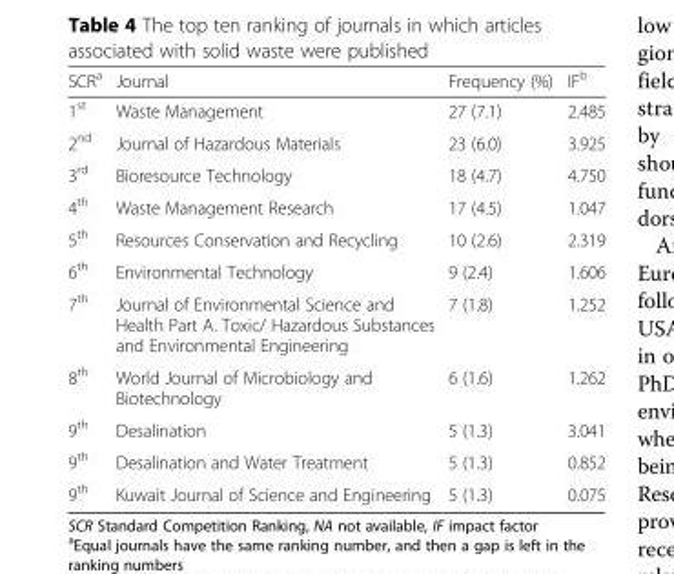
<table><thead><tr><td>SCR<sup>a</sup></td><td>Journal</td><td>Frequency (%)</td><td>IF<sup>b</sup></td></tr></thead><tbody><tr><td>1<sup>st</sup></td><td>Waste Management</td><td>27 (7.1)</td><td>2.485</td></tr><tr><td>2<sup>nd</sup></td><td>Journal of Hazardous Materials</td><td>23 (6.0)</td><td>3.925</td></tr><tr><td>3<sup>rd</sup></td><td>Bioresource Technology</td><td>18 (4.7)</td><td>4.750</td></tr><tr><td>4<sup>th</sup></td><td>Waste Management Research</td><td>17 (4.5)</td><td>1.047</td></tr><tr><td>5<sup>th</sup></td><td>Resources Conservation and Recycling</td><td>10 (2.6)</td><td>2.319</td></tr><tr><td>6<sup>th</sup></td><td>Environmental Technology</td><td>9 (2.4)</td><td>1.606</td></tr><tr><td>7<sup>th</sup></td><td>Journal of Environmental Science and Health Part A. Toxic/ Hazardous Substances and Environmental Engineering</td><td>7 (1.8)</td><td>1.252</td></tr><tr><td>8<sup>th</sup></td><td>World Journal of Microbiology and Biotechnology</td><td>6 (1.6)</td><td>1.262</td></tr><tr><td>9<sup>th</sup></td><td>Desalination</td><td>5 (1.3)</td><td>3.041</td></tr><tr><td>9<sup>th</sup></td><td>Desalination and Water Treatment</td><td>5 (1.3)</td><td>0.852</td></tr><tr><td>9<sup>th</sup></td><td>Kuwait Journal of Science and Engineering</td><td>5 (1.3)</td><td>0.075</td></tr></tbody></table>